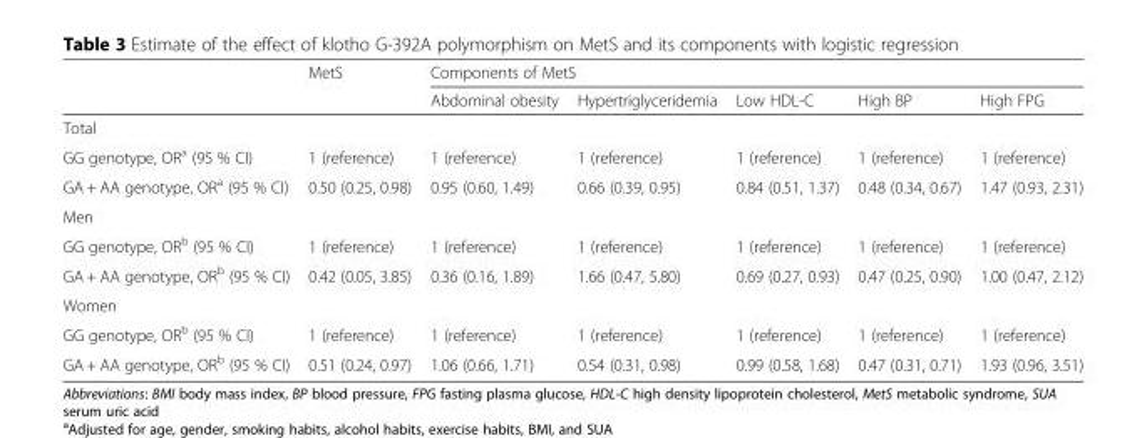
<table><thead><tr><td rowspan="2"></td><td rowspan="2">MetS</td><td colspan="5">Components of MetS</td></tr><tr><td>Abdominal obesity</td><td>Hypertriglyceridemia</td><td>Low HDL-C</td><td>High BP</td><td>High FPG</td></tr></thead><tbody><tr><td colspan="7">Total</td></tr><tr><td>GG genotype, OR<sup>a</sup> (95 % CI)</td><td>1 (reference)</td><td>1 (reference)</td><td>1 (reference)</td><td>1 (reference)</td><td>1 (reference)</td><td>1 (reference)</td></tr><tr><td>GA + AA genotype, OR<sup>a</sup> (95 % CI)</td><td>0.50 (0.25, 0.98)</td><td>0.95 (0.60, 1.49)</td><td>0.66 (0.39, 0.95)</td><td>0.84 (0.51, 1.37)</td><td>0.48 (0.34, 0.67)</td><td>1.47 (0.93, 2.31)</td></tr><tr><td colspan="7">Men</td></tr><tr><td>GG genotype, OR<sup>b</sup> (95 % CI)</td><td>1 (reference)</td><td>1 (reference)</td><td>1 (reference)</td><td>1 (reference)</td><td>1 (reference)</td><td>1 (reference)</td></tr><tr><td>GA + AA genotype, OR<sup>b</sup> (95 % CI)</td><td>0.42 (0.05, 3.85)</td><td>0.36 (0.16, 1.89)</td><td>1.66 (0.47, 5.80)</td><td>0.69 (0.27, 0.93)</td><td>0.47 (0.25, 0.90)</td><td>1.00 (0.47, 2.12)</td></tr><tr><td colspan="7">Women</td></tr><tr><td>GG genotype, OR<sup>b</sup> (95 % CI)</td><td>1 (reference)</td><td>1 (reference)</td><td>1 (reference)</td><td>1 (reference)</td><td>1 (reference)</td><td>1 (reference)</td></tr><tr><td>GA + AA genotype, OR<sup>b</sup> (95 % CI)</td><td>0.51 (0.24, 0.97)</td><td>1.06 (0.66, 1.71)</td><td>0.54 (0.31, 0.98)</td><td>0.99 (0.58, 1.68)</td><td>0.47 (0.31, 0.71)</td><td>1.93 (0.96, 3.51)</td></tr></tbody></table>